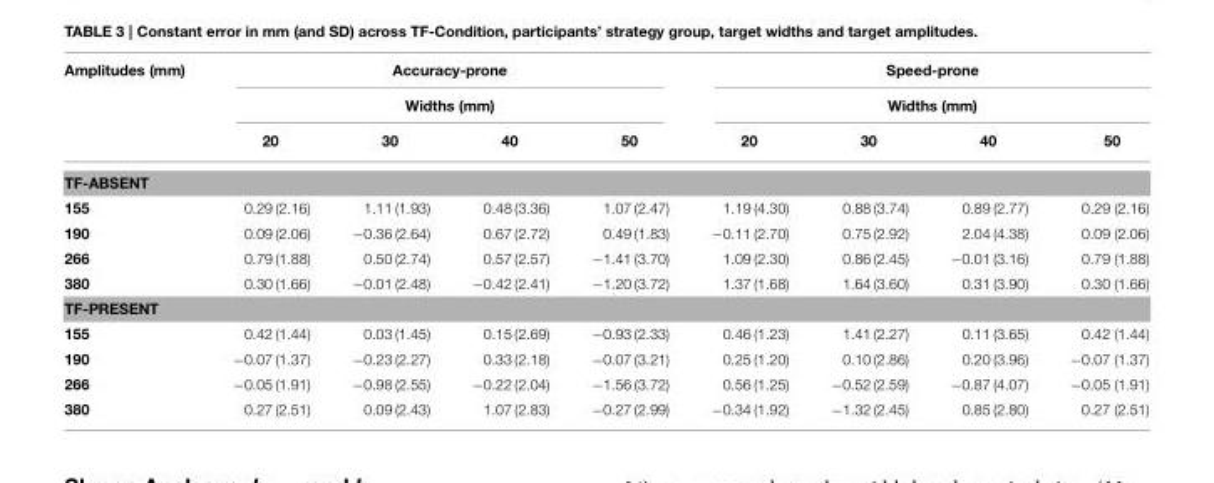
<table><thead><tr><td rowspan="3">Amplitudes (mm)</td><td rowspan="2" colspan="4">Accuracy-prone Widths (mm)</td><td rowspan="2" colspan="4">Speed-prone Widths (mm)</td></tr><tr></tr><tr><td>20</td><td>30</td><td>40</td><td>50</td><td>20</td><td>30</td><td>40</td><td>50</td></tr></thead><tbody><tr><td colspan="9">TF-ABSENT</td></tr><tr><td>155</td><td>0.29 (2.16)</td><td>1.11 (1.93)</td><td>0.48 (3.36)</td><td>1.07 (2.47)</td><td>1.19 (4.30)</td><td>0.88 (3.74)</td><td>0.89 (2.77)</td><td>0.29 (2.16)</td></tr><tr><td>190</td><td>0.09 (2.06)</td><td>−0.36 (2.64)</td><td>0.67 (2.72)</td><td>0.49 (1.83)</td><td>−0.11 (2.70)</td><td>0.75 (2.92)</td><td>2.04 (4.38)</td><td>0.09 (2.06)</td></tr><tr><td>266</td><td>0.79 (1.88)</td><td>0.50 (2.74)</td><td>0.57 (2.57)</td><td>−1.41 (3.70)</td><td>1.09 (2.30)</td><td>0.86 (2.45)</td><td>−0.01 (3.16)</td><td>0.79 (1.88)</td></tr><tr><td>380</td><td>0.30 (1.66)</td><td>−0.01 (2.48)</td><td>−0.42 (2.41)</td><td>−1.20 (3.72)</td><td>1.37 (1.68)</td><td>1.64 (3.60)</td><td>0.31 (3.90)</td><td>0.30 (1.66)</td></tr><tr><td colspan="9">TF-PRESENT</td></tr><tr><td>155</td><td>0.42 (1.44)</td><td>0.03 (1.45)</td><td>0.15 (2.69)</td><td>−0.93 (2.33)</td><td>0.46 (1.23)</td><td>1.41 (2.27)</td><td>0.11 (3.65)</td><td>0.42 (1.44)</td></tr><tr><td>190</td><td>−0.07 (1.37)</td><td>−0.23 (2.27)</td><td>0.33 (2.18)</td><td>−0.07 (3.21)</td><td>0.25 (1.20)</td><td>0.10 (2.86)</td><td>0.20 (3.96)</td><td>−0.07 (1.37)</td></tr><tr><td>266</td><td>−0.05 (1.91)</td><td>−0.98 (2.55)</td><td>−0.22 (2.04)</td><td>−1.56 (3.72)</td><td>0.56 (1.25)</td><td>−0.52 (2.59)</td><td>−0.87 (4.07)</td><td>−0.05 (1.91)</td></tr><tr><td>380</td><td>0.27 (2.51)</td><td>0.09 (2.43)</td><td>1.07 (2.83)</td><td>−0.27 (2.99)</td><td>−0.34 (1.92)</td><td>−1.32 (2.45)</td><td>0.85 (2.80)</td><td>0.27 (2.51)</td></tr></tbody></table>